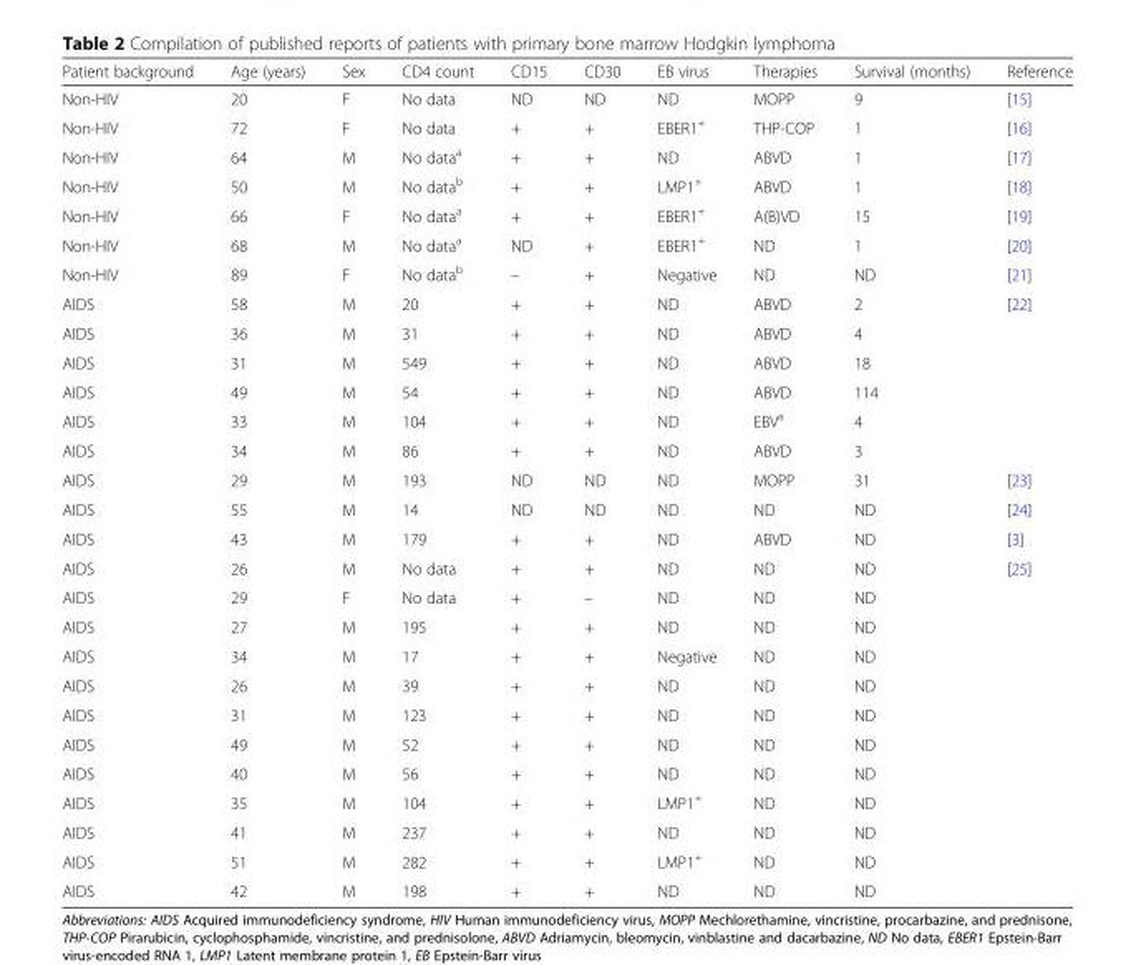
<table><thead><tr><td>Patient background</td><td>Age (years)</td><td>Sex</td><td>CD4 count</td><td>CD15</td><td>CD30</td><td>EB virus</td><td>Therapies</td><td>Survival (months)</td><td>Reference</td></tr></thead><tbody><tr><td>Non-HIV</td><td>20</td><td>F</td><td>No data</td><td>ND</td><td>ND</td><td>ND</td><td>MOPP</td><td>9</td><td>[15]</td></tr><tr><td>Non-HIV</td><td>72</td><td>F</td><td>No data</td><td>+</td><td>+</td><td>EBER1<sup>+</sup></td><td>THP-COP</td><td>1</td><td>[16]</td></tr><tr><td>Non-HIV</td><td>64</td><td>M</td><td>No data<sup>a</sup></td><td>+</td><td>+</td><td>ND</td><td>ABVD</td><td>1</td><td>[17]</td></tr><tr><td>Non-HIV</td><td>50</td><td>M</td><td>No data<sup>b</sup></td><td>+</td><td>+</td><td>LMP1<sup>+</sup></td><td>ABVD</td><td>1</td><td>[18]</td></tr><tr><td>Non-HIV</td><td>66</td><td>F</td><td>No data<sup>a</sup></td><td>+</td><td>+</td><td>EBER1<sup>+</sup></td><td>A(B)VD</td><td>15</td><td>[19]</td></tr><tr><td>Non-HIV</td><td>68</td><td>M</td><td>No data<sup>a</sup></td><td>ND</td><td>+</td><td>EBER1<sup>+</sup></td><td>ND</td><td>1</td><td>[20]</td></tr><tr><td>Non-HIV</td><td>89</td><td>F</td><td>No data<sup>b</sup></td><td>–</td><td>+</td><td>Negative</td><td>ND</td><td>ND</td><td>[21]</td></tr><tr><td>AIDS</td><td>58</td><td>M</td><td>20</td><td>+</td><td>+</td><td>ND</td><td>ABVD</td><td>2</td><td rowspan="6">[22]</td></tr><tr><td>AIDS</td><td>36</td><td>M</td><td>31</td><td>+</td><td>+</td><td>ND</td><td>ABVD</td><td>4</td></tr><tr><td>AIDS</td><td>31</td><td>M</td><td>549</td><td>+</td><td>+</td><td>ND</td><td>ABVD</td><td>18</td></tr><tr><td>AIDS</td><td>49</td><td>M</td><td>54</td><td>+</td><td>+</td><td>ND</td><td>ABVD</td><td>114</td></tr><tr><td>AIDS</td><td>33</td><td>M</td><td>104</td><td>+</td><td>+</td><td>ND</td><td>EBV<sup>a</sup></td><td>4</td></tr><tr><td>AIDS</td><td>34</td><td>M</td><td>86</td><td>+</td><td>+</td><td>ND</td><td>ABVD</td><td>3</td></tr><tr><td>AIDS</td><td>29</td><td>M</td><td>193</td><td>ND</td><td>ND</td><td>ND</td><td>MOPP</td><td>31</td><td>[23]</td></tr><tr><td>AIDS</td><td>55</td><td>M</td><td>14</td><td>ND</td><td>ND</td><td>ND</td><td>ND</td><td>ND</td><td>[24]</td></tr><tr><td>AIDS</td><td>43</td><td>M</td><td>179</td><td>+</td><td>+</td><td>ND</td><td>ABVD</td><td>ND</td><td>[3]</td></tr><tr><td>AIDS</td><td>26</td><td>M</td><td>No data</td><td>+</td><td>+</td><td>ND</td><td>ND</td><td>ND</td><td rowspan="12">[25]</td></tr><tr><td>AIDS</td><td>29</td><td>F</td><td>No data</td><td>+</td><td>–</td><td>ND</td><td>ND</td><td>ND</td></tr><tr><td>AIDS</td><td>27</td><td>M</td><td>195</td><td>+</td><td>+</td><td>ND</td><td>ND</td><td>ND</td></tr><tr><td>AIDS</td><td>34</td><td>M</td><td>17</td><td>+</td><td>+</td><td>Negative</td><td>ND</td><td>ND</td></tr><tr><td>AIDS</td><td>26</td><td>M</td><td>39</td><td>+</td><td>+</td><td>ND</td><td>ND</td><td>ND</td></tr><tr><td>AIDS</td><td>31</td><td>M</td><td>123</td><td>+</td><td>+</td><td>ND</td><td>ND</td><td>ND</td></tr><tr><td>AIDS</td><td>49</td><td>M</td><td>52</td><td>+</td><td>+</td><td>ND</td><td>ND</td><td>ND</td></tr><tr><td>AIDS</td><td>40</td><td>M</td><td>56</td><td>+</td><td>+</td><td>ND</td><td>ND</td><td>ND</td></tr><tr><td>AIDS</td><td>35</td><td>M</td><td>104</td><td>+</td><td>+</td><td>LMP1<sup>+</sup></td><td>ND</td><td>ND</td></tr><tr><td>AIDS</td><td>41</td><td>M</td><td>237</td><td>+</td><td>+</td><td>ND</td><td>ND</td><td>ND</td></tr><tr><td>AIDS</td><td>51</td><td>M</td><td>282</td><td>+</td><td>+</td><td>LMP1<sup>+</sup></td><td>ND</td><td>ND</td></tr><tr><td>AIDS</td><td>42</td><td>M</td><td>198</td><td>+</td><td>+</td><td>ND</td><td>ND</td><td>ND</td></tr></tbody></table>